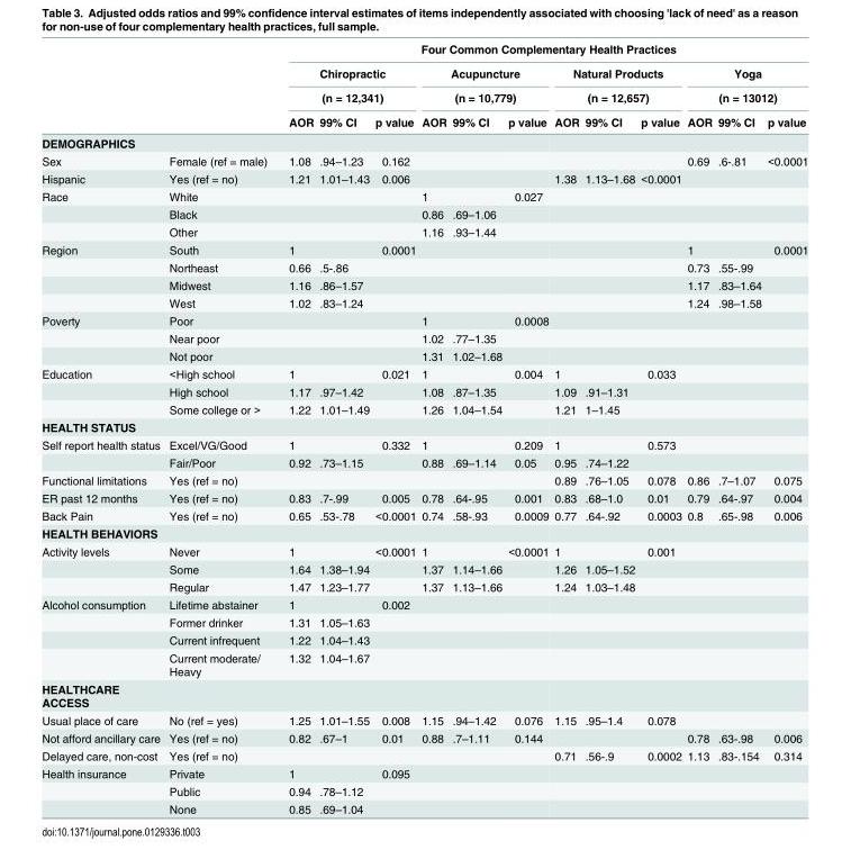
<table><thead><tr><td rowspan="4"></td><td rowspan="4"></td><td colspan="12">Four Common Complementary Health Practices</td></tr><tr><td rowspan="2" colspan="3">Chiropractic (n = 12,341)</td><td rowspan="2" colspan="3">Acupuncture (n = 10,779)</td><td rowspan="2" colspan="3">Natural Products (n = 12,657)</td><td rowspan="2" colspan="3">Yoga (n = 13012)</td></tr><tr></tr><tr><td>AOR</td><td>99% CI</td><td>p value</td><td>AOR</td><td>99% CI</td><td>p value</td><td>AOR</td><td>99% CI</td><td>p value</td><td>AOR</td><td>99% CI</td><td>p value</td></tr></thead><tbody><tr><td colspan="14">DEMOGRAPHICS</td></tr><tr><td>Sex</td><td>Female (ref = male)</td><td>1.08</td><td>.94–1.23</td><td>0.162</td><td></td><td></td><td></td><td></td><td></td><td></td><td>0.69</td><td>.6-.81</td><td>&lt;0.0001</td></tr><tr><td>Hispanic</td><td>Yes (ref = no)</td><td>1.21</td><td>1.01–1.43</td><td>0.006</td><td></td><td></td><td></td><td>1.38</td><td>1.13–1.68</td><td>&lt;0.0001</td><td></td><td></td><td></td></tr><tr><td rowspan="3">Race</td><td>White</td><td></td><td></td><td></td><td>1</td><td></td><td>0.027</td><td></td><td></td><td></td><td></td><td></td><td></td></tr><tr><td>Black</td><td></td><td></td><td></td><td>0.86</td><td>.69–1.06</td><td></td><td></td><td></td><td></td><td></td><td></td><td></td></tr><tr><td>Other</td><td></td><td></td><td></td><td>1.16</td><td>.93–1.44</td><td></td><td></td><td></td><td></td><td></td><td></td><td></td></tr><tr><td rowspan="4">Region</td><td>South</td><td>1</td><td></td><td>0.0001</td><td></td><td></td><td></td><td></td><td></td><td></td><td>1</td><td></td><td>0.0001</td></tr><tr><td>Northeast</td><td>0.66</td><td>.5-.86</td><td></td><td></td><td></td><td></td><td></td><td></td><td></td><td>0.73</td><td>.55-.99</td><td></td></tr><tr><td>Midwest</td><td>1.16</td><td>.86–1.57</td><td></td><td></td><td></td><td></td><td></td><td></td><td></td><td>1.17</td><td>.83–1.64</td><td></td></tr><tr><td>West</td><td>1.02</td><td>.83–1.24</td><td></td><td></td><td></td><td></td><td></td><td></td><td></td><td>1.24</td><td>.98–1.58</td><td></td></tr><tr><td rowspan="3">Poverty</td><td>Poor</td><td></td><td></td><td></td><td>1</td><td></td><td>0.0008</td><td></td><td></td><td></td><td></td><td></td><td></td></tr><tr><td>Near poor</td><td></td><td></td><td></td><td>1.02</td><td>.77–1.35</td><td></td><td></td><td></td><td></td><td></td><td></td><td></td></tr><tr><td>Not poor</td><td></td><td></td><td></td><td>1.31</td><td>1.02–1.68</td><td></td><td></td><td></td><td></td><td></td><td></td><td></td></tr><tr><td rowspan="3">Education</td><td>&lt;High school</td><td>1</td><td></td><td>0.021</td><td>1</td><td></td><td>0.004</td><td>1</td><td></td><td>0.033</td><td></td><td></td><td></td></tr><tr><td>High school</td><td>1.17</td><td>.97–1.42</td><td></td><td>1.08</td><td>.87–1.35</td><td></td><td>1.09</td><td>.91–1.31</td><td></td><td></td><td></td><td></td></tr><tr><td>Some college or &gt;</td><td>1.22</td><td>1.01–1.49</td><td></td><td>1.26</td><td>1.04–1.54</td><td></td><td>1.21</td><td>1–1.45</td><td></td><td></td><td></td><td></td></tr><tr><td colspan="14">HEALTH STATUS</td></tr><tr><td rowspan="2">Self report health status</td><td>Excel/VG/Good</td><td>1</td><td></td><td>0.332</td><td>1</td><td></td><td>0.209</td><td>1</td><td></td><td>0.573</td><td></td><td></td><td></td></tr><tr><td>Fair/Poor</td><td>0.92</td><td>.73–1.15</td><td></td><td>0.88</td><td>.69–1.14</td><td>0.05</td><td>0.95</td><td>.74–1.22</td><td></td><td></td><td></td><td></td></tr><tr><td>Functional limitations</td><td>Yes (ref = no)</td><td></td><td></td><td></td><td></td><td></td><td></td><td>0.89</td><td>.76–1.05</td><td>0.078</td><td>0.86</td><td>.7–1.07</td><td>0.075</td></tr><tr><td>ER past 12 months</td><td>Yes (ref = no)</td><td>0.83</td><td>.7-.99</td><td>0.005</td><td>0.78</td><td>.64-.95</td><td>0.001</td><td>0.83</td><td>.68–1.0</td><td>0.01</td><td>0.79</td><td>.64-.97</td><td>0.004</td></tr><tr><td>Back Pain</td><td>Yes (ref = no)</td><td>0.65</td><td>.53-.78</td><td>&lt;0.0001</td><td>0.74</td><td>.58-.93</td><td>0.0009</td><td>0.77</td><td>.64-.92</td><td>0.0003</td><td>0.8</td><td>.65-.98</td><td>0.006</td></tr><tr><td colspan="14">HEALTH BEHAVIORS</td></tr><tr><td rowspan="3">Activity levels</td><td>Never</td><td>1</td><td></td><td>&lt;0.0001</td><td>1</td><td></td><td>&lt;0.0001</td><td>1</td><td></td><td>0.001</td><td></td><td></td><td></td></tr><tr><td>Some</td><td>1.64</td><td>1.38–1.94</td><td></td><td>1.37</td><td>1.14–1.66</td><td></td><td>1.26</td><td>1.05–1.52</td><td></td><td></td><td></td><td></td></tr><tr><td>Regular</td><td>1.47</td><td>1.23–1.77</td><td></td><td>1.37</td><td>1.13–1.66</td><td></td><td>1.24</td><td>1.03–1.48</td><td></td><td></td><td></td><td></td></tr><tr><td rowspan="4">Alcohol consumption</td><td>Lifetime abstainer</td><td>1</td><td></td><td>0.002</td><td></td><td></td><td></td><td></td><td></td><td></td><td></td><td></td><td></td></tr><tr><td>Former drinker</td><td>1.31</td><td>1.05–1.63</td><td></td><td></td><td></td><td></td><td></td><td></td><td></td><td></td><td></td><td></td></tr><tr><td>Current infrequent</td><td>1.22</td><td>1.04–1.43</td><td></td><td></td><td></td><td></td><td></td><td></td><td></td><td></td><td></td><td></td></tr><tr><td>Current moderate/ Heavy</td><td>1.32</td><td>1.04–1.67</td><td></td><td></td><td></td><td></td><td></td><td></td><td></td><td></td><td></td><td></td></tr><tr><td colspan="14">HEALTHCARE ACCESS</td></tr><tr><td>Usual place of care</td><td>No (ref = yes)</td><td>1.25</td><td>1.01–1.55</td><td>0.008</td><td>1.15</td><td>.94–1.42</td><td>0.076</td><td>1.15</td><td>.95–1.4</td><td>0.078</td><td></td><td></td><td></td></tr><tr><td>Not afford ancillary care</td><td>Yes (ref = no)</td><td>0.82</td><td>.67–1</td><td>0.01</td><td>0.88</td><td>.7–1.11</td><td>0.144</td><td></td><td></td><td></td><td>0.78</td><td>.63-.98</td><td>0.006</td></tr><tr><td>Delayed care, non-cost</td><td>Yes (ref = no)</td><td></td><td></td><td></td><td></td><td></td><td></td><td>0.71</td><td>.56-.9</td><td>0.0002</td><td>1.13</td><td>.83-.154</td><td>0.314</td></tr><tr><td rowspan="3">Health insurance</td><td>Private</td><td>1</td><td></td><td>0.095</td><td></td><td></td><td></td><td></td><td></td><td></td><td></td><td></td><td></td></tr><tr><td>Public</td><td>0.94</td><td>.78–1.12</td><td></td><td></td><td></td><td></td><td></td><td></td><td></td><td></td><td></td><td></td></tr><tr><td>None</td><td>0.85</td><td>.69–1.04</td><td></td><td></td><td></td><td></td><td></td><td></td><td></td><td></td><td></td><td></td></tr></tbody></table>